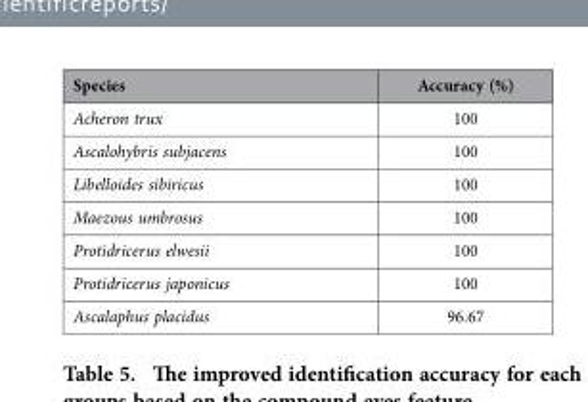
<table><thead><tr><td>Species</td><td>Accuracy (%)</td></tr></thead><tbody><tr><td>Acheron trux</td><td>100</td></tr><tr><td>Ascalohybris subjacens</td><td>100</td></tr><tr><td>Libelloides sibiricus</td><td>100</td></tr><tr><td>Maezous umbrosus</td><td>100</td></tr><tr><td>Protidricerus elwesii</td><td>100</td></tr><tr><td>Protidricerus japonicus</td><td>100</td></tr><tr><td>Ascalaphus placidus</td><td>96.67</td></tr></tbody></table>